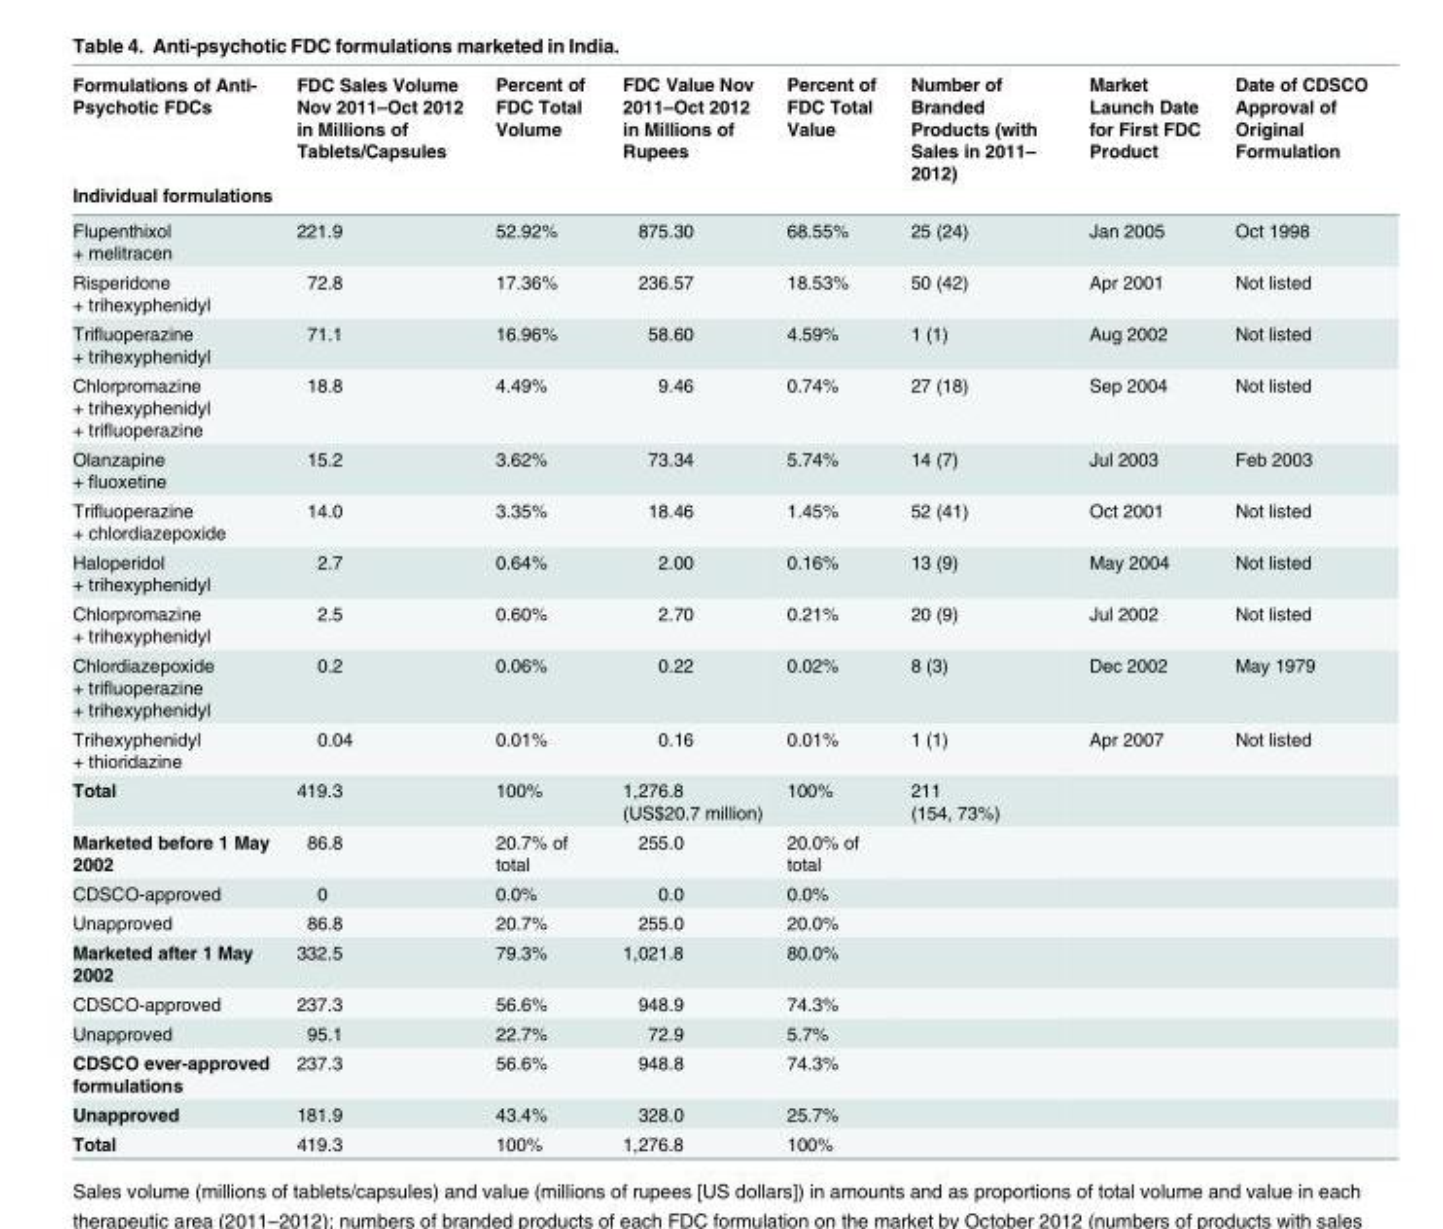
<table><thead><tr><td rowspan="2">Formulations of Anti- Psychotic FDCs Individual formulations</td><td rowspan="2">FDC Sales Volume Nov 2011–Oct 2012 in Millions of Tablets/Capsules</td><td rowspan="2">Percent of FDC Total Volume</td><td rowspan="2">FDC Value Nov 2011–Oct 2012 in Millions of Rupees</td><td rowspan="2">Percent of FDC Total Value</td><td rowspan="2">Number of Branded Products (with Sales in 2011– 2012)</td><td rowspan="2">Market Launch Date for First FDC Product</td><td rowspan="2">Date of CDSCO Approval of Original Formulation</td></tr><tr></tr></thead><tbody><tr><td>Flupenthixol + melitracen</td><td>221.9</td><td>52.92%</td><td>875.30</td><td>68.55%</td><td>25 (24)</td><td>Jan 2005</td><td>Oct 1998</td></tr><tr><td>Risperidone + trihexyphenidyl</td><td>72.8</td><td>17.36%</td><td>236.57</td><td>18.53%</td><td>50 (42)</td><td>Apr 2001</td><td>Not listed</td></tr><tr><td>Trifluoperazine + trihexyphenidyl</td><td>71.1</td><td>16.96%</td><td>58.60</td><td>4.59%</td><td>1 (1)</td><td>Aug 2002</td><td>Not listed</td></tr><tr><td>Chlorpromazine + trihexyphenidyl + trifluoperazine</td><td>18.8</td><td>4.49%</td><td>9.46</td><td>0.74%</td><td>27 (18)</td><td>Sep 2004</td><td>Not listed</td></tr><tr><td>Olanzapine + fluoxetine</td><td>15.2</td><td>3.62%</td><td>73.34</td><td>5.74%</td><td>14 (7)</td><td>Jul 2003</td><td>Feb 2003</td></tr><tr><td>Trifluoperazine + chlordiazepoxide</td><td>14.0</td><td>3.35%</td><td>18.46</td><td>1.45%</td><td>52 (41)</td><td>Oct 2001</td><td>Not listed</td></tr><tr><td>Haloperidol + trihexyphenidyl</td><td>2.7</td><td>0.64%</td><td>2.00</td><td>0.16%</td><td>13 (9)</td><td>May 2004</td><td>Not listed</td></tr><tr><td>Chlorpromazine + trihexyphenidyl</td><td>2.5</td><td>0.60%</td><td>2.70</td><td>0.21%</td><td>20 (9)</td><td>Jul 2002</td><td>Not listed</td></tr><tr><td>Chlordiazepoxide + trifluoperazine + trihexyphenidyl</td><td>0.2</td><td>0.06%</td><td>0.22</td><td>0.02%</td><td>8 (3)</td><td>Dec 2002</td><td>May 1979</td></tr><tr><td>Trihexyphenidyl + thioridazine</td><td>0.04</td><td>0.01%</td><td>0.16</td><td>0.01%</td><td>1 (1)</td><td>Apr 2007</td><td>Not listed</td></tr><tr><td>Total</td><td>419.3</td><td>100%</td><td>1,276.8 (US$20.7 million)</td><td>100%</td><td>211 (154, 73%)</td><td></td><td></td></tr><tr><td>Marketed before 1 May 2002</td><td>86.8</td><td>20.7% of total</td><td>255.0</td><td>20.0% of total</td><td></td><td></td><td></td></tr><tr><td>CDSCO-approved</td><td>0</td><td>0.0%</td><td>0.0</td><td>0.0%</td><td></td><td></td><td></td></tr><tr><td>Unapproved</td><td>86.8</td><td>20.7%</td><td>255.0</td><td>20.0%</td><td></td><td></td><td></td></tr><tr><td>Marketed after 1 May 2002</td><td>332.5</td><td>79.3%</td><td>1,021.8</td><td>80.0%</td><td></td><td></td><td></td></tr><tr><td>CDSCO-approved</td><td>237.3</td><td>56.6%</td><td>948.9</td><td>74.3%</td><td></td><td></td><td></td></tr><tr><td>Unapproved</td><td>95.1</td><td>22.7%</td><td>72.9</td><td>5.7%</td><td></td><td></td><td></td></tr><tr><td>CDSCO ever-approved formulations</td><td>237.3</td><td>56.6%</td><td>948.8</td><td>74.3%</td><td></td><td></td><td></td></tr><tr><td>Unapproved</td><td>181.9</td><td>43.4%</td><td>328.0</td><td>25.7%</td><td></td><td></td><td></td></tr><tr><td>Total</td><td>419.3</td><td>100%</td><td>1,276.8</td><td>100%</td><td></td><td></td><td></td></tr></tbody></table>